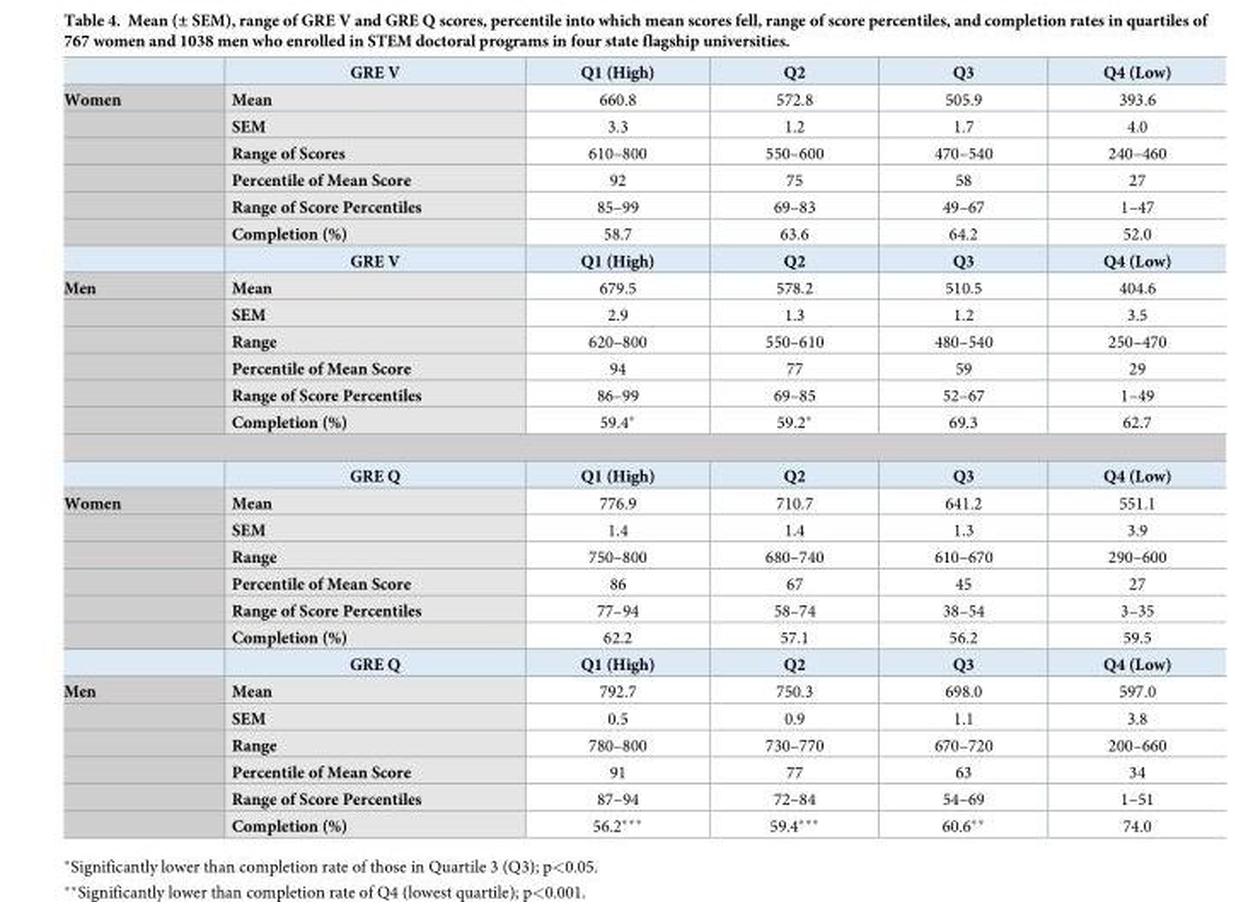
<table><thead><tr><td></td><td>GRE V</td><td>Q1 (High)</td><td>Q2</td><td>Q3</td><td>Q4 (Low)</td></tr></thead><tbody><tr><td rowspan="7">Women</td><td>Mean</td><td>660.8</td><td>572.8</td><td>505.9</td><td>393.6</td></tr><tr><td>SEM</td><td>3.3</td><td>1.2</td><td>1.7</td><td>4.0</td></tr><tr><td>Range of Scores</td><td>610–800</td><td>550–600</td><td>470–540</td><td>240–460</td></tr><tr><td>Percentile of Mean Score</td><td>92</td><td>75</td><td>58</td><td>27</td></tr><tr><td>Range of Score Percentiles</td><td>85–99</td><td>69–83</td><td>49–67</td><td>1–47</td></tr><tr><td>Completion (%)</td><td>58.7</td><td>63.6</td><td>64.2</td><td>52.0</td></tr><tr><td>GRE V</td><td>Q1 (High)</td><td>Q2</td><td>Q3</td><td>Q4 (Low)</td></tr><tr><td rowspan="7">Men</td><td>Mean</td><td>679.5</td><td>578.2</td><td>510.5</td><td>404.6</td></tr><tr><td>SEM</td><td>2.9</td><td>1.3</td><td>1.2</td><td>3.5</td></tr><tr><td>Range</td><td>620–800</td><td>550–610</td><td>480–540</td><td>250–470</td></tr><tr><td>Percentile of Mean Score</td><td>94</td><td>77</td><td>59</td><td>29</td></tr><tr><td>Range of Score Percentiles</td><td>86–99</td><td>69–85</td><td>52–67</td><td>1–49</td></tr><tr><td>Completion (%)</td><td>59.4*</td><td>59.2*</td><td>69.3</td><td>62.7</td></tr><tr><td>GRE Q</td><td>Q1 (High)</td><td>Q2</td><td>Q3</td><td>Q4 (Low)</td></tr><tr><td rowspan="7">Women</td><td>Mean</td><td>776.9</td><td>710.7</td><td>641.2</td><td>551.1</td></tr><tr><td>SEM</td><td>1.4</td><td>1.4</td><td>1.3</td><td>3.9</td></tr><tr><td>Range</td><td>750–800</td><td>680–740</td><td>610–670</td><td>290–600</td></tr><tr><td>Percentile of Mean Score</td><td>86</td><td>67</td><td>45</td><td>27</td></tr><tr><td>Range of Score Percentiles</td><td>77–94</td><td>58–74</td><td>38–54</td><td>3–35</td></tr><tr><td>Completion (%)</td><td>62.2</td><td>57.1</td><td>56.2</td><td>59.5</td></tr><tr><td>GRE Q</td><td>Q1 (High)</td><td>Q2</td><td>Q3</td><td>Q4 (Low)</td></tr><tr><td rowspan="6">Men</td><td>Mean</td><td>792.7</td><td>750.3</td><td>698.0</td><td>597.0</td></tr><tr><td>SEM</td><td>0.5</td><td>0.9</td><td>1.1</td><td>3.8</td></tr><tr><td>Range</td><td>780–800</td><td>730–770</td><td>670–720</td><td>200–660</td></tr><tr><td>Percentile of Mean Score</td><td>91</td><td>77</td><td>63</td><td>34</td></tr><tr><td>Range of Score Percentiles</td><td>87–94</td><td>72–84</td><td>54–69</td><td>1–51</td></tr><tr><td>Completion (%)</td><td>56.2***</td><td>59.4***</td><td>60.6**</td><td>74.0</td></tr></tbody></table>